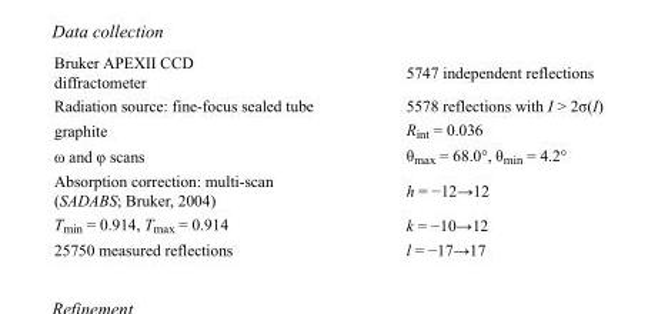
<table><tbody><tr><td>Bruker APEXII CCD diffractometer</td><td>5747 independent reflections</td></tr><tr><td>Radiation source: fine-focus sealed tube</td><td>5578 reflections with I &gt; 2σ(I)</td></tr><tr><td>graphite</td><td>R<sub>int</sub> = 0.036</td></tr><tr><td>ω and φ scans</td><td>θ<sub>max</sub> = 68.0°, θ<sub>min</sub> = 4.2°</td></tr><tr><td>Absorption correction: multi-scan (SADABS; Bruker, 2004)</td><td>h = −12→12</td></tr><tr><td>T<sub>min</sub> = 0.914, T<sub>max</sub> = 0.914</td><td>k = −10→12</td></tr><tr><td>25750 measured reflections</td><td>l = −17→17</td></tr></tbody></table>